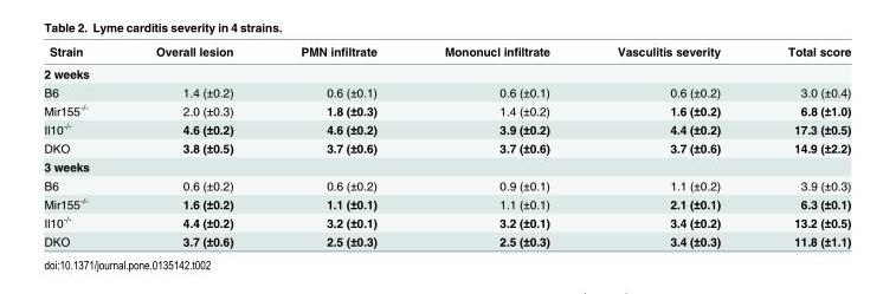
<table><thead><tr><td>Strain</td><td>Overall lesion</td><td>PMN infiltrate</td><td>Mononucl infiltrate</td><td>Vasculitis severity</td><td>Total score</td></tr></thead><tbody><tr><td colspan="6">2 weeks</td></tr><tr><td>B6</td><td>1.4 (±0.2)</td><td>0.6 (±0.1)</td><td>0.6 (±0.1)</td><td>0.6 (±0.2)</td><td>3.0 (±0.4)</td></tr><tr><td>Mir155<sup>-/-</sup></td><td>2.0 (±0.3)</td><td>1.8 (±0.3)</td><td>1.4 (±0.2)</td><td>1.6 (±0.2)</td><td>6.8 (±1.0)</td></tr><tr><td>Il10<sup>-/-</sup></td><td>4.6 (±0.2)</td><td>4.6 (±0.2)</td><td>3.9 (±0.2)</td><td>4.4 (±0.2)</td><td>17.3 (±0.5)</td></tr><tr><td>DKO</td><td>3.8 (±0.5)</td><td>3.7 (±0.6)</td><td>3.7 (±0.6)</td><td>3.7 (±0.6)</td><td>14.9 (±2.2)</td></tr><tr><td colspan="6">3 weeks</td></tr><tr><td>B6</td><td>0.6 (±0.2)</td><td>0.6 (±0.2)</td><td>0.9 (±0.1)</td><td>1.1 (±0.2)</td><td>3.9 (±0.3)</td></tr><tr><td>Mir155<sup>-/-</sup></td><td>1.6 (±0.2)</td><td>1.1 (±0.1)</td><td>1.1 (±0.1)</td><td>2.1 (±0.1)</td><td>6.3 (±0.1)</td></tr><tr><td>Il10<sup>-/-</sup></td><td>4.4 (±0.2)</td><td>3.2 (±0.1)</td><td>3.2 (±0.1)</td><td>3.4 (±0.2)</td><td>13.2 (±0.5)</td></tr><tr><td>DKO</td><td>3.7 (±0.6)</td><td>2.5 (±0.3)</td><td>2.5 (±0.3)</td><td>3.4 (±0.3)</td><td>11.8 (±1.1)</td></tr></tbody></table>